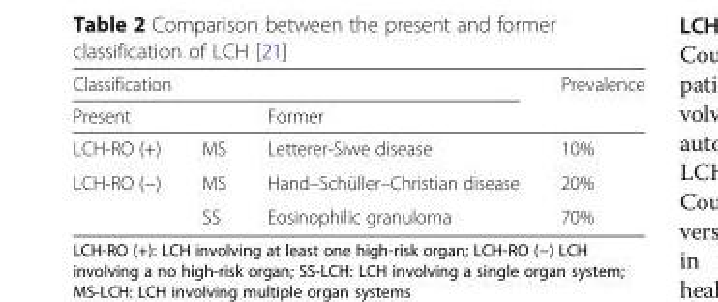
<table><thead><tr><td colspan="3">Classification</td><td rowspan="3">Prevalence 10%</td></tr><tr><td colspan="2">Present</td><td rowspan="2">Former Letterer-Siwe disease</td></tr><tr><td>LCH-RO (+)</td><td>MS</td></tr></thead><tbody><tr><td rowspan="2">LCH-RO (−)</td><td>MS</td><td>Hand–Schüller–Christian disease</td><td>20%</td></tr><tr><td>SS</td><td>Eosinophilic granuloma</td><td>70%</td></tr></tbody></table>